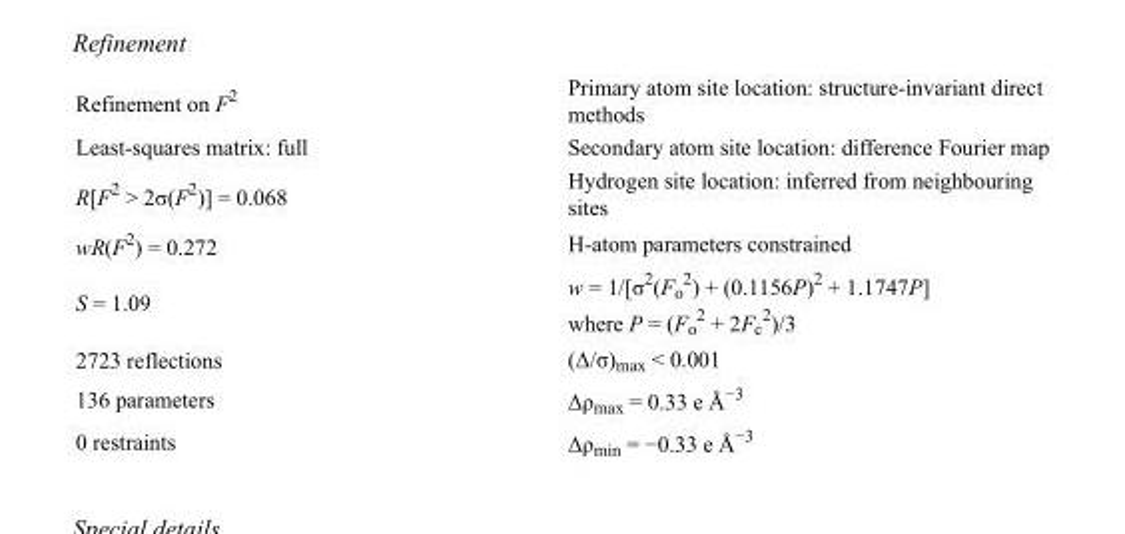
<table><tbody><tr><td>Refinement on F<sup>2</sup></td><td>Primary atom site location: structure-invariant direct methods</td></tr><tr><td>Least-squares matrix: full</td><td>Secondary atom site location: difference Fourier map</td></tr><tr><td>R[F<sup>2</sup> &gt; 2σ(F<sup>2</sup>)] = 0.068</td><td>Hydrogen site location: inferred from neighbouring sites</td></tr><tr><td>wR(F<sup>2</sup>) = 0.272</td><td>H-atom parameters constrained</td></tr><tr><td>S = 1.09</td><td>w = 1/[σ<sup>2</sup>(F<sub>o</sub> <sup>2</sup>) + (0.1156P)<sup>2</sup> + 1.1747P] where P = (F<sub>o</sub> <sup>2</sup> + 2F<sub>c</sub> <sup>2</sup>)/3</td></tr><tr><td>2723 reflections</td><td>(Δ/σ)<sub>max</sub> &lt; 0.001</td></tr><tr><td>136 parameters</td><td>Δρ<sub>max</sub> = 0.33 e Å<sup>−3</sup></td></tr><tr><td>0 restraints</td><td>Δρ<sub>min</sub> = −0.33 e Å<sup>−3</sup></td></tr></tbody></table>